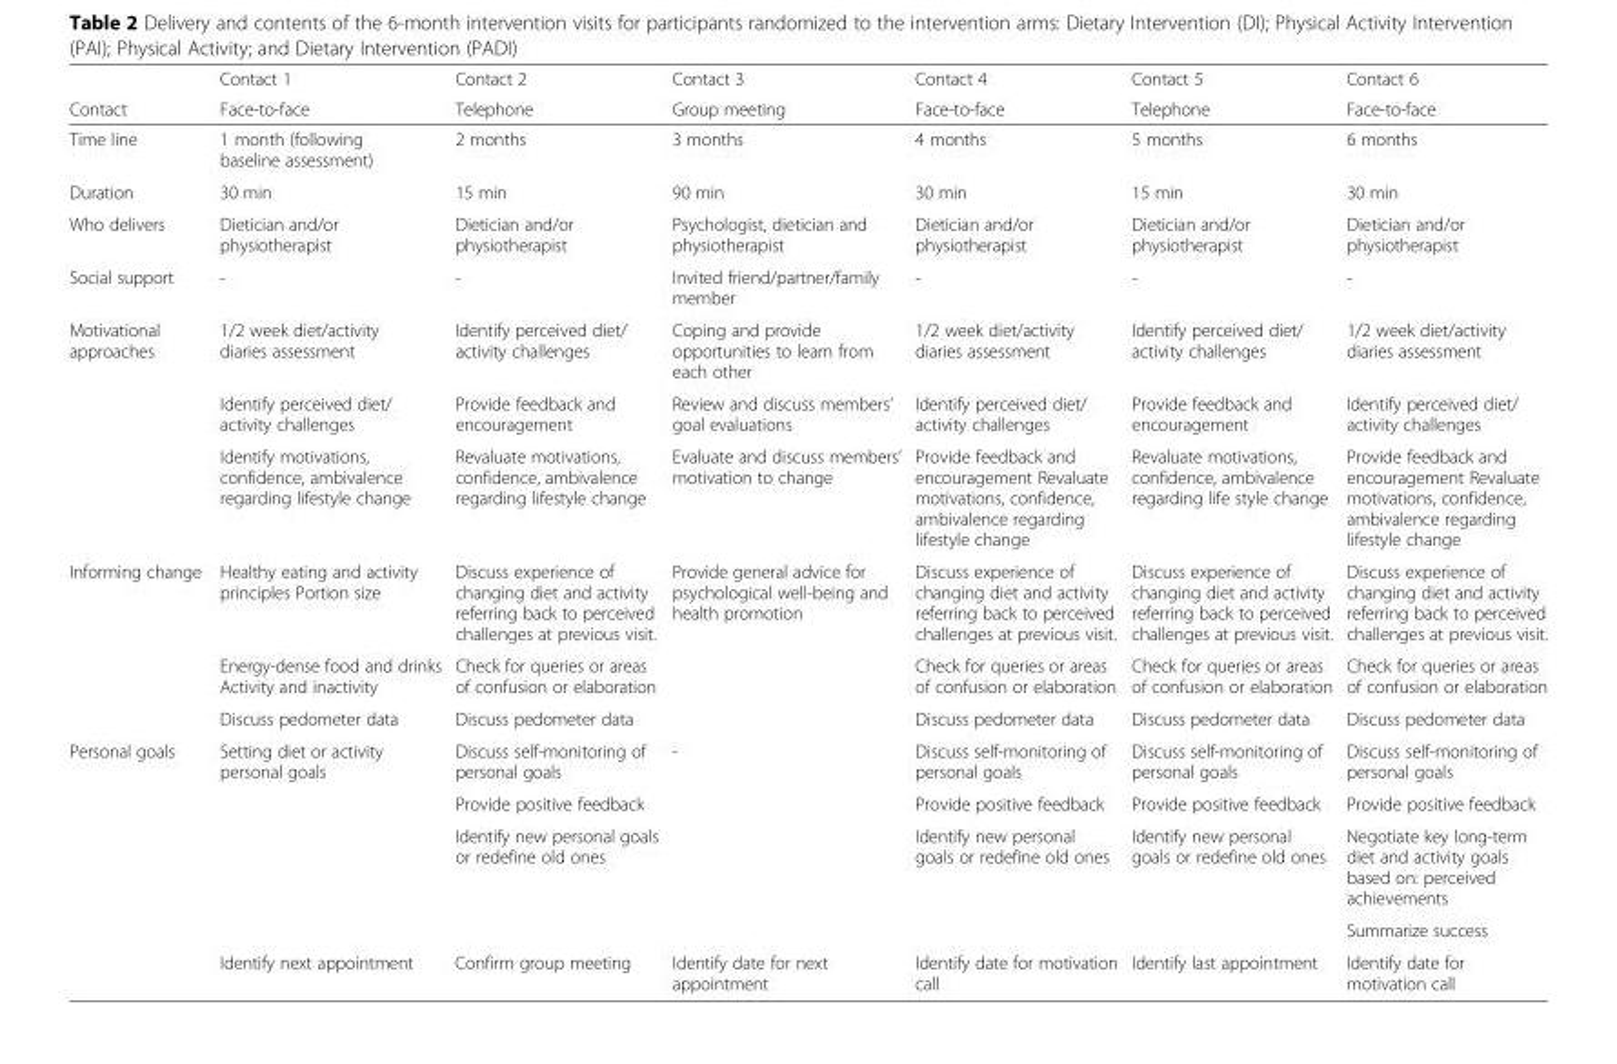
<table><thead><tr><td rowspan="2">Contact</td><td rowspan="2">Contact 1 Face-to-face</td><td rowspan="2">Contact 2 Telephone</td><td rowspan="2">Contact 3 Group meeting</td><td rowspan="2">Contact 4 Face-to-face</td><td rowspan="2">Contact 5 Telephone</td><td rowspan="2">Contact 6 Face-to-face</td></tr><tr></tr></thead><tbody><tr><td>Time line</td><td>1 month (following baseline assessment)</td><td>2 months</td><td>3 months</td><td>4 months</td><td>5 months</td><td>6 months</td></tr><tr><td>Duration</td><td>30 min</td><td>15 min</td><td>90 min</td><td>30 min</td><td>15 min</td><td>30 min</td></tr><tr><td>Who delivers</td><td>Dietician and/or physiotherapist</td><td>Dietician and/or physiotherapist</td><td>Psychologist, dietician and physiotherapist</td><td>Dietician and/or physiotherapist</td><td>Dietician and/or physiotherapist</td><td>Dietician and/or physiotherapist</td></tr><tr><td>Social support</td><td>-</td><td>-</td><td>Invited friend/partner/family member</td><td>-</td><td>-</td><td>-</td></tr><tr><td rowspan="3">Motivational approaches</td><td>1/2 week diet/activity diaries assessment</td><td>Identify perceived diet/ activity challenges</td><td>Coping and provide opportunities to learn from each other</td><td>1/2 week diet/activity diaries assessment</td><td>Identify perceived diet/ activity challenges</td><td>1/2 week diet/activity diaries assessment</td></tr><tr><td>Identify perceived diet/ activity challenges</td><td>Provide feedback and encouragement</td><td>Review and discuss members’ goal evaluations</td><td>Identify perceived diet/ activity challenges</td><td>Provide feedback and encouragement</td><td>Identify perceived diet/ activity challenges</td></tr><tr><td>Identify motivations, confidence, ambivalence regarding lifestyle change</td><td>Revaluate motivations, confidence, ambivalence regarding lifestyle change</td><td>Evaluate and discuss members’ motivation to change</td><td>Provide feedback and encouragement Revaluate motivations, confidence, ambivalence regarding lifestyle change</td><td>Revaluate motivations, confidence, ambivalence regarding life style change</td><td>Provide feedback and encouragement Revaluate motivations, confidence, ambivalence regarding lifestyle change</td></tr><tr><td rowspan="3">Informing change</td><td>Healthy eating and activity principles Portion size</td><td>Discuss experience of changing diet and activity referring back to perceived challenges at previous visit.</td><td rowspan="3">Provide general advice for psychological well-being and health promotion</td><td>Discuss experience of changing diet and activity referring back to perceived challenges at previous visit.</td><td>Discuss experience of changing diet and activity referring back to perceived challenges at previous visit.</td><td>Discuss experience of changing diet and activity referring back to perceived challenges at previous visit.</td></tr><tr><td>Energy-dense food and drinks Activity and inactivity</td><td>Check for queries or areas of confusion or elaboration</td><td>Check for queries or areas of confusion or elaboration</td><td>Check for queries or areas of confusion or elaboration</td><td>Check for queries or areas of confusion or elaboration</td></tr><tr><td>Discuss pedometer data</td><td>Discuss pedometer data</td><td>Discuss pedometer data</td><td>Discuss pedometer data</td><td>Discuss pedometer data</td></tr><tr><td rowspan="5">Personal goals</td><td rowspan="4">Setting diet or activity personal goals</td><td>Discuss self-monitoring of personal goals</td><td rowspan="4">-</td><td>Discuss self-monitoring of personal goals</td><td>Discuss self-monitoring of personal goals</td><td>Discuss self-monitoring of personal goals</td></tr><tr><td>Provide positive feedback</td><td>Provide positive feedback</td><td>Provide positive feedback</td><td>Provide positive feedback</td></tr><tr><td rowspan="2">Identify new personal goals or redefine old ones</td><td rowspan="2">Identify new personal goals or redefine old ones</td><td rowspan="2">Identify new personal goals or redefine old ones</td><td>Negotiate key long-term diet and activity goals based on: perceived achievements</td></tr><tr><td>Summarize success</td></tr><tr><td>Identify next appointment</td><td>Confirm group meeting</td><td>Identify date for next appointment</td><td>Identify date for motivation call</td><td>Identify last appointment</td><td>Identify date for motivation call</td></tr></tbody></table>